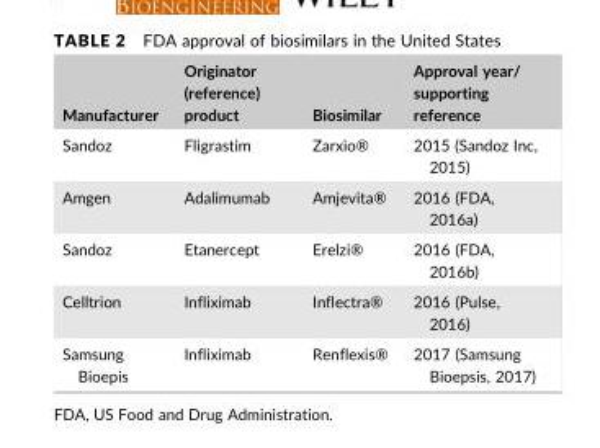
<table><thead><tr><td>Manufacturer</td><td>Originator (reference) product</td><td>Biosimilar</td><td>Approval year/ supporting reference</td></tr></thead><tbody><tr><td>Sandoz</td><td>Fligrastim</td><td>Zarxio®</td><td>2015 (Sandoz Inc, 2015)</td></tr><tr><td>Amgen</td><td>Adalimumab</td><td>Amjevita®</td><td>2016 (FDA, 2016a)</td></tr><tr><td>Sandoz</td><td>Etanercept</td><td>Erelzi®</td><td>2016 (FDA, 2016b)</td></tr><tr><td>Celltrion</td><td>Infliximab</td><td>Inflectra®</td><td>2016 (Pulse, 2016)</td></tr><tr><td>Samsung Bioepis</td><td>Infliximab</td><td>Renflexis®</td><td>2017 (Samsung Bioepsis, 2017)</td></tr></tbody></table>